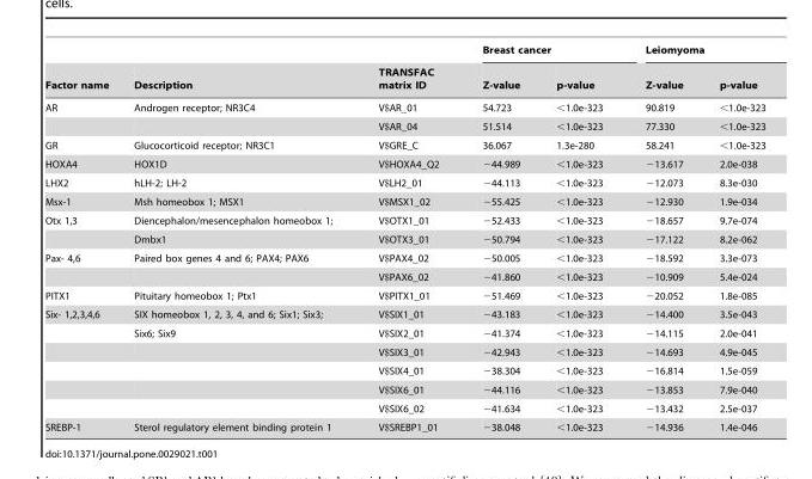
<table><thead><tr><td rowspan="2">Factor name</td><td rowspan="2">Description</td><td rowspan="2">TRANSFAC matrix ID</td><td colspan="2">Breast cancer</td><td colspan="2">Leiomyoma</td></tr><tr><td>Z-value</td><td>p-value</td><td>Z-value</td><td>p-value</td></tr></thead><tbody><tr><td rowspan="2">AR</td><td>Androgen receptor; NR3C4</td><td>V$AR_01</td><td>54.723</td><td>&lt;1.0e-323</td><td>90.819</td><td>&lt;1.0e-323</td></tr><tr><td></td><td>V$AR_04</td><td>51.514</td><td>&lt;1.0e-323</td><td>77.330</td><td>&lt;1.0e-323</td></tr><tr><td>GR</td><td>Glucocorticoid receptor; NR3C1</td><td>V$GRE_C</td><td>36.067</td><td>1.3e-280</td><td>58.241</td><td>&lt;1.0e-323</td></tr><tr><td>HOXA4</td><td>HOX1D</td><td>V$HOXA4_Q2</td><td>−44.989</td><td>&lt;1.0e-323</td><td>−13.617</td><td>2.0e-038</td></tr><tr><td>LHX2</td><td>hLH-2; LH-2</td><td>V$LH2_01</td><td>−44.113</td><td>&lt;1.0e-323</td><td>−12.073</td><td>8.3e-030</td></tr><tr><td>Msx-1</td><td>Msh homeobox 1; MSX1</td><td>V$MSX1_02</td><td>−55.425</td><td>&lt;1.0e-323</td><td>−12.930</td><td>1.9e-034</td></tr><tr><td rowspan="2">Otx 1,3</td><td>Diencephalon/mesencephalon homeobox 1;</td><td>V$OTX1_01</td><td>−52.433</td><td>&lt;1.0e-323</td><td>−18.657</td><td>9.7e-074</td></tr><tr><td>Dmbx1</td><td>V$OTX3_01</td><td>−50.794</td><td>&lt;1.0e-323</td><td>−17.122</td><td>8.2e-062</td></tr><tr><td rowspan="2">Pax- 4,6</td><td>Paired box genes 4 and 6; PAX4; PAX6</td><td>V$PAX4_02</td><td>−50.005</td><td>&lt;1.0e-323</td><td>−18.592</td><td>3.3e-073</td></tr><tr><td></td><td>V$PAX6_02</td><td>−41.860</td><td>&lt;1.0e-323</td><td>−10.909</td><td>5.4e-024</td></tr><tr><td>PITX1</td><td>Pituitary homeobox 1; Ptx1</td><td>V$PITX1_01</td><td>−51.469</td><td>&lt;1.0e-323</td><td>−20.052</td><td>1.8e-085</td></tr><tr><td rowspan="6">Six- 1,2,3,4,6</td><td>SIX homeobox 1, 2, 3, 4, and 6; Six1; Six3;</td><td>V$SIX1_01</td><td>−43.183</td><td>&lt;1.0e-323</td><td>−14.400</td><td>3.5e-043</td></tr><tr><td>Six6; Six9</td><td>V$SIX2_01</td><td>−41.374</td><td>&lt;1.0e-323</td><td>−14.115</td><td>2.0e-041</td></tr><tr><td></td><td>V$SIX3_01</td><td>−42.943</td><td>&lt;1.0e-323</td><td>−14.693</td><td>4.9e-045</td></tr><tr><td></td><td>V$SIX4_01</td><td>−38.304</td><td>&lt;1.0e-323</td><td>−16.814</td><td>1.5e-059</td></tr><tr><td></td><td>V$SIX6_01</td><td>−44.116</td><td>&lt;1.0e-323</td><td>−13.853</td><td>7.9e-040</td></tr><tr><td></td><td>V$SIX6_02</td><td>−41.634</td><td>&lt;1.0e-323</td><td>−13.432</td><td>2.5e-037</td></tr><tr><td>SREBP-1</td><td>Sterol regulatory element binding protein 1</td><td>V$SREBP1_01</td><td>−38.048</td><td>&lt;1.0e-323</td><td>−14.936</td><td>1.4e-046</td></tr></tbody></table>